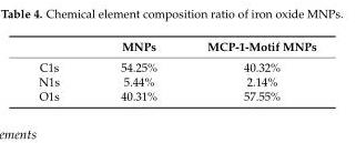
<table><thead><tr><td></td><td>MNPs</td><td>MCP-1-Motif MNPs</td></tr></thead><tbody><tr><td>C1s</td><td>54.25%</td><td>40.32%</td></tr><tr><td>N1s</td><td>5.44%</td><td>2.14%</td></tr><tr><td>O1s</td><td>40.31%</td><td>57.55%</td></tr></tbody></table>